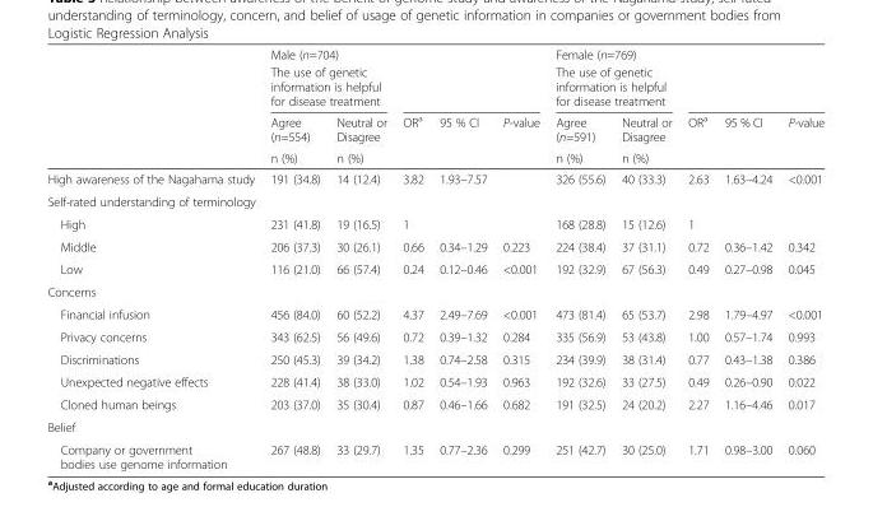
<table><thead><tr><td rowspan="4"></td><td colspan="5">Male (n=704)</td><td colspan="5">Female (n=769)</td></tr><tr><td colspan="2">The use of genetic information is helpful for disease treatment</td><td rowspan="3">OR<sup>a</sup></td><td rowspan="3">95 % CI</td><td rowspan="3">P-value</td><td colspan="2">The use of genetic information is helpful for disease treatment</td><td rowspan="3">OR<sup>a</sup></td><td rowspan="3">95 % CI</td><td rowspan="3">P-value</td></tr><tr><td rowspan="2">Agree (n=554) n (%)</td><td rowspan="2">Neutral or Disagree n (%)</td><td rowspan="2">Agree (n=591) n (%)</td><td rowspan="2">Neutral or Disagree n (%)</td></tr><tr></tr></thead><tbody><tr><td>High awareness of the Nagahama study</td><td>191 (34.8)</td><td>14 (12.4)</td><td>3.82</td><td>1.93–7.57</td><td></td><td>326 (55.6)</td><td>40 (33.3)</td><td>2.63</td><td>1.63–4.24</td><td>&lt;0.001</td></tr><tr><td colspan="11">Self-rated understanding of terminology</td></tr><tr><td>High</td><td>231 (41.8)</td><td>19 (16.5)</td><td>1</td><td></td><td></td><td>168 (28.8)</td><td>15 (12.6)</td><td>1</td><td></td><td></td></tr><tr><td>Middle</td><td>206 (37.3)</td><td>30 (26.1)</td><td>0.66</td><td>0.34–1.29</td><td>0.223</td><td>224 (38.4)</td><td>37 (31.1)</td><td>0.72</td><td>0.36–1.42</td><td>0.342</td></tr><tr><td>Low</td><td>116 (21.0)</td><td>66 (57.4)</td><td>0.24</td><td>0.12–0.46</td><td>&lt;0.001</td><td>192 (32.9)</td><td>67 (56.3)</td><td>0.49</td><td>0.27–0.98</td><td>0.045</td></tr><tr><td colspan="11">Concerns</td></tr><tr><td>Financial infusion</td><td>456 (84.0)</td><td>60 (52.2)</td><td>4.37</td><td>2.49–7.69</td><td>&lt;0.001</td><td>473 (81.4)</td><td>65 (53.7)</td><td>2.98</td><td>1.79–4.97</td><td>&lt;0.001</td></tr><tr><td>Privacy concerns</td><td>343 (62.5)</td><td>56 (49.6)</td><td>0.72</td><td>0.39–1.32</td><td>0.284</td><td>335 (56.9)</td><td>53 (43.8)</td><td>1.00</td><td>0.57–1.74</td><td>0.993</td></tr><tr><td>Discriminations</td><td>250 (45.3)</td><td>39 (34.2)</td><td>1.38</td><td>0.74–2.58</td><td>0.315</td><td>234 (39.9)</td><td>38 (31.4)</td><td>0.77</td><td>0.43–1.38</td><td>0.386</td></tr><tr><td>Unexpected negative effects</td><td>228 (41.4)</td><td>38 (33.0)</td><td>1.02</td><td>0.54–1.93</td><td>0.963</td><td>192 (32.6)</td><td>33 (27.5)</td><td>0.49</td><td>0.26–0.90</td><td>0.022</td></tr><tr><td>Cloned human beings</td><td>203 (37.0)</td><td>35 (30.4)</td><td>0.87</td><td>0.46–1.66</td><td>0.682</td><td>191 (32.5)</td><td>24 (20.2)</td><td>2.27</td><td>1.16–4.46</td><td>0.017</td></tr><tr><td colspan="11">Belief</td></tr><tr><td>Company or government bodies use genome information</td><td>267 (48.8)</td><td>33 (29.7)</td><td>1.35</td><td>0.77–2.36</td><td>0.299</td><td>251 (42.7)</td><td>30 (25.0)</td><td>1.71</td><td>0.98–3.00</td><td>0.060</td></tr></tbody></table>